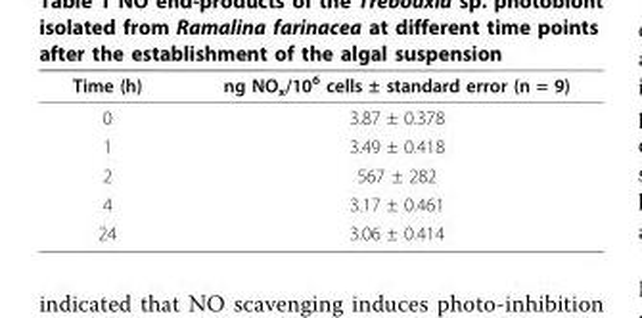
<table><thead><tr><td>Time (h)</td><td>ng NO<sub>x</sub>/10<sup>6</sup> cells ± standard error (n = 9)</td></tr></thead><tbody><tr><td>0</td><td>3.87 ± 0.378</td></tr><tr><td>1</td><td>3.49 ± 0.418</td></tr><tr><td>2</td><td>567 ± 282</td></tr><tr><td>4</td><td>3.17 ± 0.461</td></tr><tr><td>24</td><td>3.06 ± 0.414</td></tr></tbody></table>